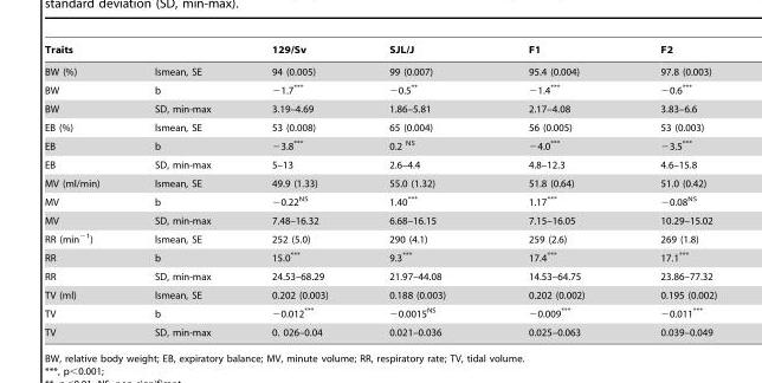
<table><thead><tr><td>Traits</td><td></td><td>129/Sv</td><td>SJL/J</td><td>F1</td><td>F2</td></tr></thead><tbody><tr><td>BW (%)</td><td>lsmean, SE</td><td>94 (0.005)</td><td>99 (0.007)</td><td>95.4 (0.004)</td><td>97.8 (0.003)</td></tr><tr><td>BW</td><td>b</td><td>−1.7***</td><td>−0.5**</td><td>−1.4***</td><td>−0.6***</td></tr><tr><td>BW</td><td>SD, min-max</td><td>3.19–4.69</td><td>1.86–5.81</td><td>2.17–4.08</td><td>3.83–6.6</td></tr><tr><td>EB (%)</td><td>lsmean, SE</td><td>53 (0.008)</td><td>65 (0.004)</td><td>56 (0.005)</td><td>53 (0.003)</td></tr><tr><td>EB</td><td>b</td><td>−3.8***</td><td>0.2 <sup>NS</sup></td><td>−4.0***</td><td>−3.5***</td></tr><tr><td>EB</td><td>SD, min-max</td><td>5–13</td><td>2.6–4.4</td><td>4.8–12.3</td><td>4.6–15.8</td></tr><tr><td>MV (ml/min)</td><td>lsmean, SE</td><td>49.9 (1.33)</td><td>55.0 (1.32)</td><td>51.8 (0.64)</td><td>51.0 (0.42)</td></tr><tr><td>MV</td><td>b</td><td>−0.22<sup>NS</sup></td><td>1.40***</td><td>1.17***</td><td>−0.08<sup>NS</sup></td></tr><tr><td>MV</td><td>SD, min-max</td><td>7.48–16.32</td><td>6.68–16.15</td><td>7.15–16.05</td><td>10.29–15.02</td></tr><tr><td>RR (min<sup>−1</sup>)</td><td>lsmean, SE</td><td>252 (5.0)</td><td>290 (4.1)</td><td>259 (2.6)</td><td>269 (1.8)</td></tr><tr><td>RR</td><td>b</td><td>15.0***</td><td>9.3***</td><td>17.4***</td><td>17.1***</td></tr><tr><td>RR</td><td>SD, min-max</td><td>24.53–68.29</td><td>21.97–44.08</td><td>14.53–64.75</td><td>23.86–77.32</td></tr><tr><td>TV (ml)</td><td>lsmean, SE</td><td>0.202 (0.003)</td><td>0.188 (0.003)</td><td>0.202 (0.002)</td><td>0.195 (0.002)</td></tr><tr><td>TV</td><td>b</td><td>−0.012***</td><td>−0.0015<sup>NS</sup></td><td>−0.009***</td><td>−0.011***</td></tr><tr><td>TV</td><td>SD, min-max</td><td>0. 026–0.04</td><td>0.021–0.036</td><td>0.025–0.063</td><td>0.039–0.049</td></tr></tbody></table>